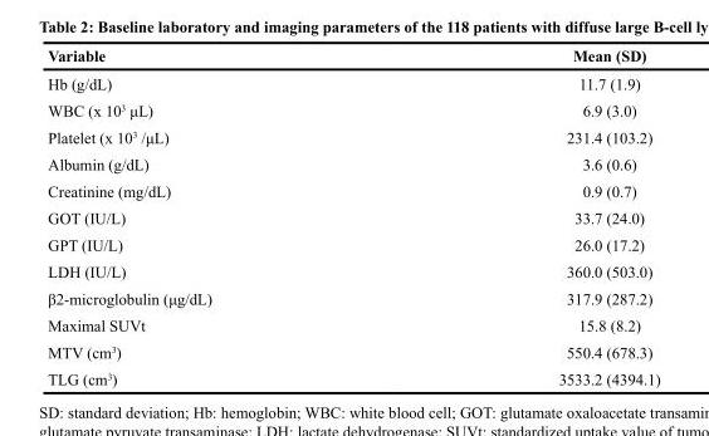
<table><thead><tr><td>Variable</td><td>Mean (SD)</td></tr></thead><tbody><tr><td>Hb (g/dL)</td><td>11.7 (1.9)</td></tr><tr><td>WBC (x 10<sup>3</sup> μL)</td><td>6.9 (3.0)</td></tr><tr><td>Platelet (x 10<sup>3</sup> /μL)</td><td>231.4 (103.2)</td></tr><tr><td>Albumin (g/dL)</td><td>3.6 (0.6)</td></tr><tr><td>Creatinine (mg/dL)</td><td>0.9 (0.7)</td></tr><tr><td>GOT (IU/L)</td><td>33.7 (24.0)</td></tr><tr><td>GPT (IU/L)</td><td>26.0 (17.2)</td></tr><tr><td>LDH (IU/L)</td><td>360.0 (503.0)</td></tr><tr><td>β2-microglobulin (μg/dL)</td><td>317.9 (287.2)</td></tr><tr><td>Maximal SUVt</td><td>15.8 (8.2)</td></tr><tr><td>MTV (cm<sup>3</sup>)</td><td>550.4 (678.3)</td></tr><tr><td>TLG (cm<sup>3</sup>)</td><td>3533.2 (4394.1)</td></tr></tbody></table>